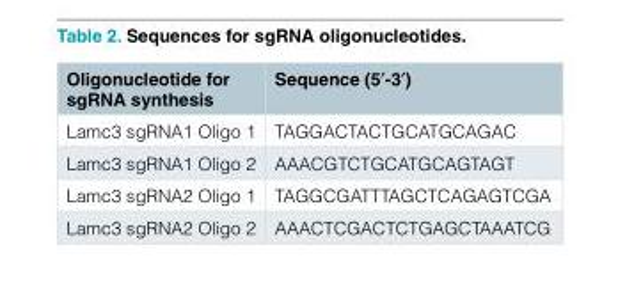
<table><thead><tr><td>Oligonucleotide for sgRNA synthesis</td><td>Sequence (5′-3′)</td></tr></thead><tbody><tr><td>Lamc3 sgRNA1 Oligo 1</td><td>TAGGACTACTGCATGCAGAC</td></tr><tr><td>Lamc3 sgRNA1 Oligo 2</td><td>AAACGTCTGCATGCAGTAGT</td></tr><tr><td>Lamc3 sgRNA2 Oligo 1</td><td>TAGGCGATTTAGCTCAGAGTCGA</td></tr><tr><td>Lamc3 sgRNA2 Oligo 2</td><td>AAACTCGACTCTGAGCTAAATCG</td></tr></tbody></table>